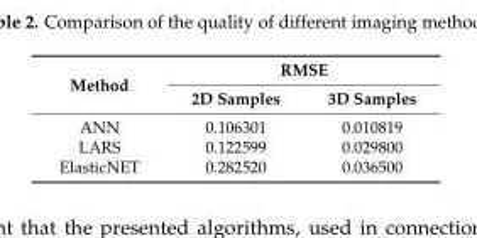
<table><thead><tr><td rowspan="2">Method</td><td colspan="2">RMSE</td></tr><tr><td>2D Samples</td><td>3D Samples</td></tr></thead><tbody><tr><td>ANN</td><td>0.106301</td><td>0.010819</td></tr><tr><td>LARS</td><td>0.122599</td><td>0.029800</td></tr><tr><td>ElasticNET</td><td>0.282520</td><td>0.036500</td></tr></tbody></table>